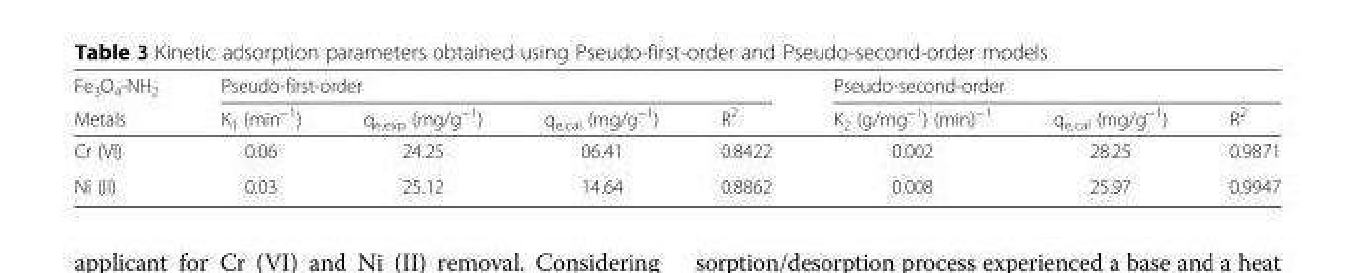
<table><thead><tr><td rowspan="2">Fe<sub>3</sub>O<sub>4</sub>-NH<sub>2</sub> Metals</td><td colspan="4">Pseudo-first-order</td><td colspan="3">Pseudo-second-order</td></tr><tr><td>K<sub>1</sub> (min<sup>−1</sup>)</td><td>q<sub>e,exp</sub> (mg/g<sup>−1</sup>)</td><td>q<sub>e,cal</sub> (mg/g<sup>−1</sup>)</td><td>R<sup>2</sup></td><td>K<sub>2</sub> (g/mg<sup>−1</sup>) (min)<sup>−1</sup></td><td>q<sub>e,cal</sub> (mg/g<sup>−1</sup>)</td><td>R<sup>2</sup></td></tr></thead><tbody><tr><td>Cr (VI)</td><td>0.06</td><td>24.25</td><td>06.41</td><td>0.8422</td><td>0.002</td><td>28.25</td><td>0.9871</td></tr><tr><td>Ni (II)</td><td>0.03</td><td>25.12</td><td>14.64</td><td>0.8862</td><td>0.008</td><td>25.97</td><td>0.9947</td></tr></tbody></table>